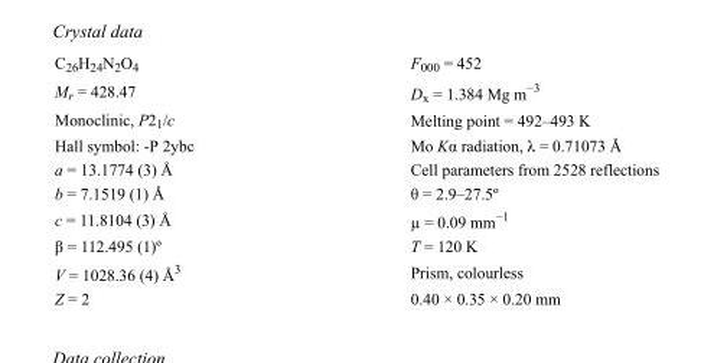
<table><tbody><tr><td>C<sub>26</sub>H<sub>24</sub>N<sub>2</sub>O<sub>4</sub></td><td>F000 = 452</td></tr><tr><td>M<sub>r</sub> = 428.47</td><td>D<sub>x</sub> = 1.384 Mg m<sup>−3</sup></td></tr><tr><td>Monoclinic, P2<sub>1</sub>/c</td><td>Melting point = 492–493 K</td></tr><tr><td>Hall symbol: -P 2ybc</td><td>Mo Kα radiation, λ = 0.71073 Å</td></tr><tr><td>a = 13.1774 (3) Å</td><td>Cell parameters from 2528 reflections</td></tr><tr><td>b = 7.1519 (1) Å</td><td>θ = 2.9–27.5º</td></tr><tr><td>c = 11.8104 (3) Å</td><td>µ = 0.09 mm<sup>−1</sup></td></tr><tr><td>β = 112.495 (1)º</td><td>T = 120 K</td></tr><tr><td>V = 1028.36 (4) Å<sup>3</sup></td><td>Prism, colourless</td></tr><tr><td>Z = 2</td><td>0.40 × 0.35 × 0.20 mm</td></tr></tbody></table>